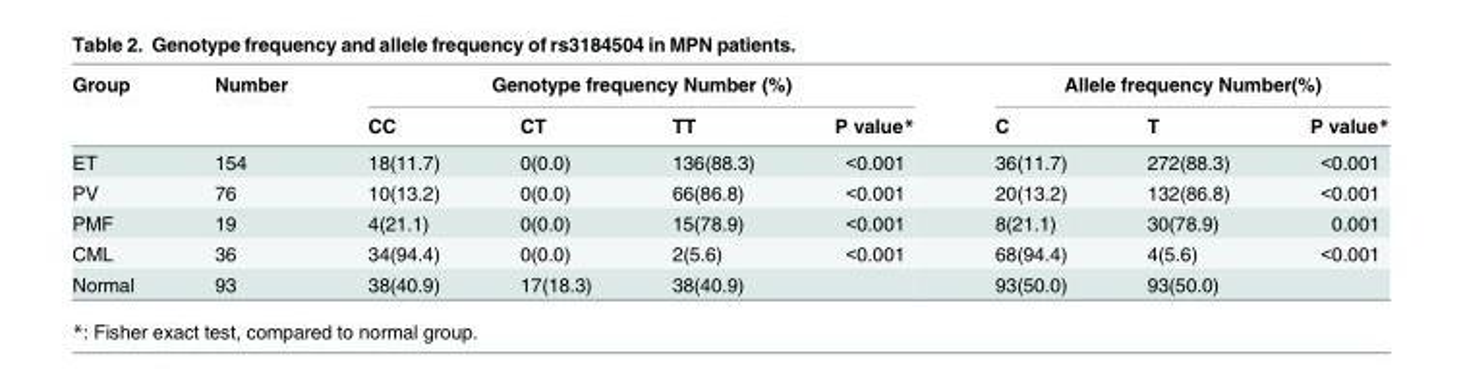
<table><thead><tr><td rowspan="2">Group</td><td rowspan="2">Number</td><td colspan="4">Genotype frequency Number (%)</td><td colspan="3">Allele frequency Number(%)</td></tr><tr><td>CC</td><td>CT</td><td>TT</td><td>P value*</td><td>C</td><td>T</td><td>P value*</td></tr></thead><tbody><tr><td>ET</td><td>154</td><td>18(11.7)</td><td>0(0.0)</td><td>136(88.3)</td><td>&lt;0.001</td><td>36(11.7)</td><td>272(88.3)</td><td>&lt;0.001</td></tr><tr><td>PV</td><td>76</td><td>10(13.2)</td><td>0(0.0)</td><td>66(86.8)</td><td>&lt;0.001</td><td>20(13.2)</td><td>132(86.8)</td><td>&lt;0.001</td></tr><tr><td>PMF</td><td>19</td><td>4(21.1)</td><td>0(0.0)</td><td>15(78.9)</td><td>&lt;0.001</td><td>8(21.1)</td><td>30(78.9)</td><td>0.001</td></tr><tr><td>CML</td><td>36</td><td>34(94.4)</td><td>0(0.0)</td><td>2(5.6)</td><td>&lt;0.001</td><td>68(94.4)</td><td>4(5.6)</td><td>&lt;0.001</td></tr><tr><td>Normal</td><td>93</td><td>38(40.9)</td><td>17(18.3)</td><td>38(40.9)</td><td></td><td>93(50.0)</td><td>93(50.0)</td><td></td></tr></tbody></table>